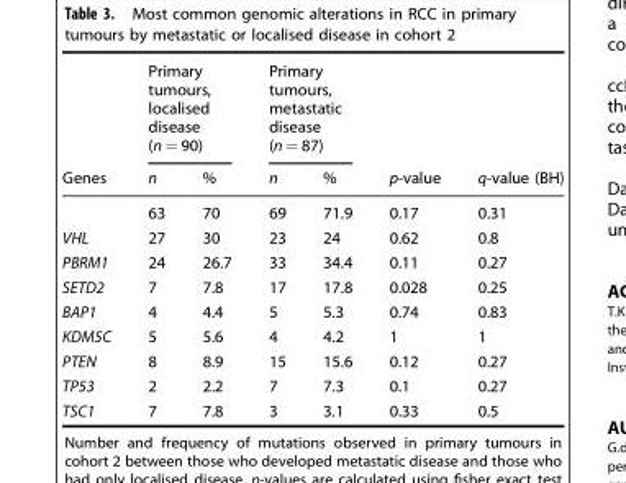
<table><thead><tr><td rowspan="2">Genes</td><td colspan="2">Primary tumours, localised disease (n = 90)</td><td colspan="2">Primary tumours, metastatic disease (n = 87)</td><td rowspan="2">p-value</td><td rowspan="2">q-value (BH)</td></tr><tr><td>n</td><td>%</td><td>n</td><td>%</td></tr></thead><tbody><tr><td></td><td>63</td><td>70</td><td>69</td><td>71.9</td><td>0.17</td><td>0.31</td></tr><tr><td>VHL</td><td>27</td><td>30</td><td>23</td><td>24</td><td>0.62</td><td>0.8</td></tr><tr><td>PBRM1</td><td>24</td><td>26.7</td><td>33</td><td>34.4</td><td>0.11</td><td>0.27</td></tr><tr><td>SETD2</td><td>7</td><td>7.8</td><td>17</td><td>17.8</td><td>0.028</td><td>0.25</td></tr><tr><td>BAP1</td><td>4</td><td>4.4</td><td>5</td><td>5.3</td><td>0.74</td><td>0.83</td></tr><tr><td>KDM5C</td><td>5</td><td>5.6</td><td>4</td><td>4.2</td><td>1</td><td>1</td></tr><tr><td>PTEN</td><td>8</td><td>8.9</td><td>15</td><td>15.6</td><td>0.12</td><td>0.27</td></tr><tr><td>TP53</td><td>2</td><td>2.2</td><td>7</td><td>7.3</td><td>0.1</td><td>0.27</td></tr><tr><td>TSC1</td><td>7</td><td>7.8</td><td>3</td><td>3.1</td><td>0.33</td><td>0.5</td></tr></tbody></table>